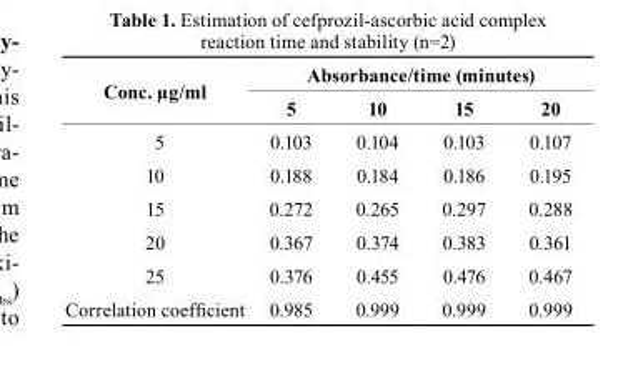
<table><thead><tr><td rowspan="2">conc. µg/ml</td><td colspan="4">Absorbance/time (minutes)</td></tr><tr><td>5</td><td>10</td><td>15</td><td>20</td></tr></thead><tbody><tr><td>5</td><td>0.103</td><td>0.104</td><td>0.103</td><td>0.107</td></tr><tr><td>10</td><td>0.188</td><td>0.184</td><td>0.186</td><td>0.195</td></tr><tr><td>15</td><td>0.272</td><td>0.265</td><td>0.297</td><td>0.288</td></tr><tr><td>20</td><td>0.367</td><td>0.374</td><td>0.383</td><td>0.361</td></tr><tr><td>25</td><td>0.376</td><td>0.455</td><td>0.476</td><td>0.467</td></tr><tr><td>Correlation coefficient</td><td>0.985</td><td>0.999</td><td>0.999</td><td>0.999</td></tr></tbody></table>